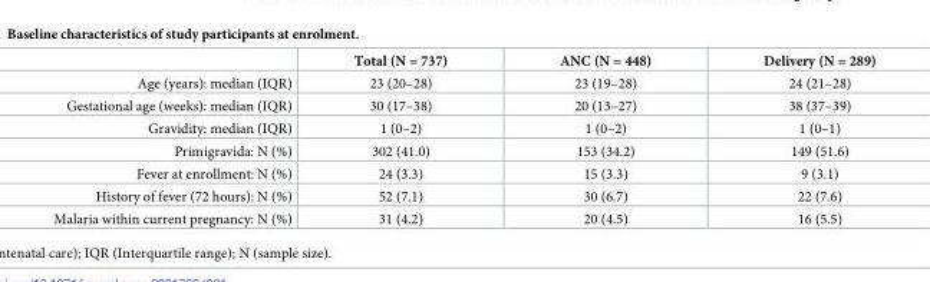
<table><thead><tr><td></td><td>Total (N = 737)</td><td>ANC (N = 448)</td><td>Delivery (N = 289)</td></tr></thead><tbody><tr><td>Age (years): median (IQR)</td><td>23 (20–28)</td><td>23 (19–28)</td><td>24 (21–28)</td></tr><tr><td>Gestational age (weeks): median (IQR)</td><td>30 (17–38)</td><td>20 (13–27)</td><td>38 (37–39)</td></tr><tr><td>Gravidity: median (IQR)</td><td>1 (0–2)</td><td>1 (0–2)</td><td>1 (0–1)</td></tr><tr><td>Primigravida: N (%)</td><td>302 (41.0)</td><td>153 (34.2)</td><td>149 (51.6)</td></tr><tr><td>Fever at enrollment: N (%)</td><td>24 (3.3)</td><td>15 (3.3)</td><td>9 (3.1)</td></tr><tr><td>History of fever (72 hours): N (%)</td><td>52 (7.1)</td><td>30 (6.7)</td><td>22 (7.6)</td></tr><tr><td>Malaria within current pregnancy: N (%)</td><td>31 (4.2)</td><td>20 (4.5)</td><td>16 (5.5)</td></tr></tbody></table>